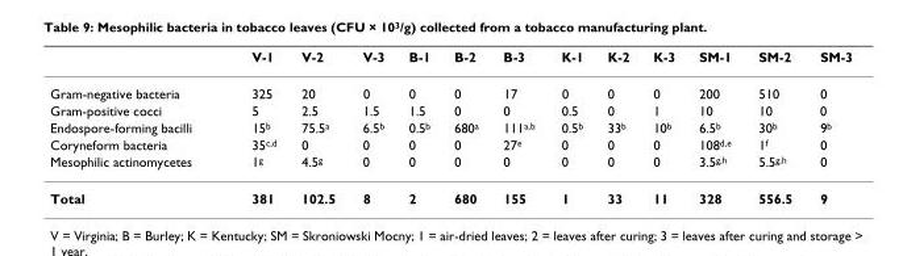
<table><thead><tr><td></td><td>V-1</td><td>V-2</td><td>V-3</td><td>B-1</td><td>B-2</td><td>B-3</td><td>K-1</td><td>K-2</td><td>K-3</td><td>SM-1</td><td>SM-2</td><td>SM-3</td></tr></thead><tbody><tr><td>Gram-negative bacteria</td><td>325</td><td>20</td><td>0</td><td>0</td><td>0</td><td>17</td><td>0</td><td>0</td><td>0</td><td>200</td><td>510</td><td>0</td></tr><tr><td>Gram-positive cocci</td><td>5</td><td>2.5</td><td>1.5</td><td>1.5</td><td>0</td><td>0</td><td>0.5</td><td>0</td><td>1</td><td>10</td><td>10</td><td>0</td></tr><tr><td>Endospore-forming bacilli</td><td>15<sup>b</sup></td><td>75.5<sup>a</sup></td><td>6.5<sup>b</sup></td><td>0.5<sup>b</sup></td><td>680<sup>a</sup></td><td>111<sup>a,b</sup></td><td>0.5<sup>b</sup></td><td>33<sup>b</sup></td><td>10<sup>b</sup></td><td>6.5<sup>b</sup></td><td>30<sup>b</sup></td><td>9<sup>b</sup></td></tr><tr><td>Coryneform bacteria</td><td>35<sup>c,d</sup></td><td>0</td><td>0</td><td>0</td><td>0</td><td>27<sup>e</sup></td><td>0</td><td>0</td><td>0</td><td>108<sup>d,e</sup></td><td>1<sup>f</sup></td><td>0</td></tr><tr><td>Mesophilic actinomycetes</td><td>1<sup>g</sup></td><td>4.5<sup>g</sup></td><td>0</td><td>0</td><td>0</td><td>0</td><td>0</td><td>0</td><td>0</td><td>3.5<sup>g,h</sup></td><td>5.5<sup>g,h</sup></td><td>0</td></tr><tr><td>Total</td><td>381</td><td>102.5</td><td>8</td><td>2</td><td>680</td><td>155</td><td>1</td><td>33</td><td>11</td><td>328</td><td>556.5</td><td>9</td></tr></tbody></table>